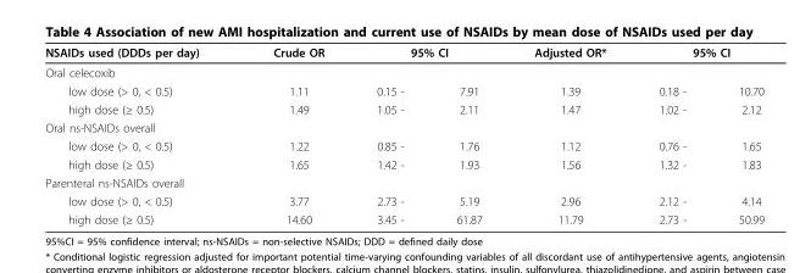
<table><thead><tr><td rowspan="2">NSAIDs used (DDDs per day) Oral celecoxib</td><td rowspan="2">Crude OR</td><td colspan="2">95% CI</td><td rowspan="2">Adjusted OR*</td><td colspan="2">95% CI</td></tr><tr><td></td><td></td><td></td><td></td></tr></thead><tbody><tr><td>low dose (&gt; 0, &lt; 0.5)</td><td>1.11</td><td>0.15 -</td><td>7.91</td><td>1.39</td><td>0.18 -</td><td>10.70</td></tr><tr><td>high dose (≥ 0.5)</td><td>1.49</td><td>1.05 -</td><td>2.11</td><td>1.47</td><td>1.02 -</td><td>2.12</td></tr><tr><td colspan="7">Oral ns-NSAIDs overall</td></tr><tr><td>low dose (&gt; 0, &lt; 0.5)</td><td>1.22</td><td>0.85 -</td><td>1.76</td><td>1.12</td><td>0.76 -</td><td>1.65</td></tr><tr><td>high dose (≥ 0.5)</td><td>1.65</td><td>1.42 -</td><td>1.93</td><td>1.56</td><td>1.32 -</td><td>1.83</td></tr><tr><td colspan="7">Parenteral ns-NSAIDs overall</td></tr><tr><td>low dose (&gt; 0, &lt; 0.5)</td><td>3.77</td><td>2.73 -</td><td>5.19</td><td>2.96</td><td>2.12 -</td><td>4.14</td></tr><tr><td>high dose (≥ 0.5)</td><td>14.60</td><td>3.45 -</td><td>61.87</td><td>11.79</td><td>2.73 -</td><td>50.99</td></tr></tbody></table>